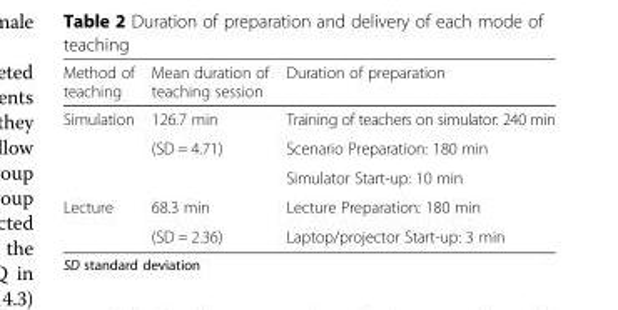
<table><thead><tr><td>Method of teaching</td><td>Mean duration of teaching session</td><td>Duration of preparation</td></tr></thead><tbody><tr><td rowspan="3">Simulation</td><td>126.7 min</td><td>Training of teachers on simulator: 240 min</td></tr><tr><td>(SD = 4.71)</td><td>Scenario Preparation: 180 min</td></tr><tr><td></td><td>Simulator Start-up: 10 min</td></tr><tr><td rowspan="2">Lecture</td><td>68.3 min</td><td>Lecture Preparation: 180 min</td></tr><tr><td>(SD = 2.36)</td><td>Laptop/projector Start-up: 3 min</td></tr></tbody></table>